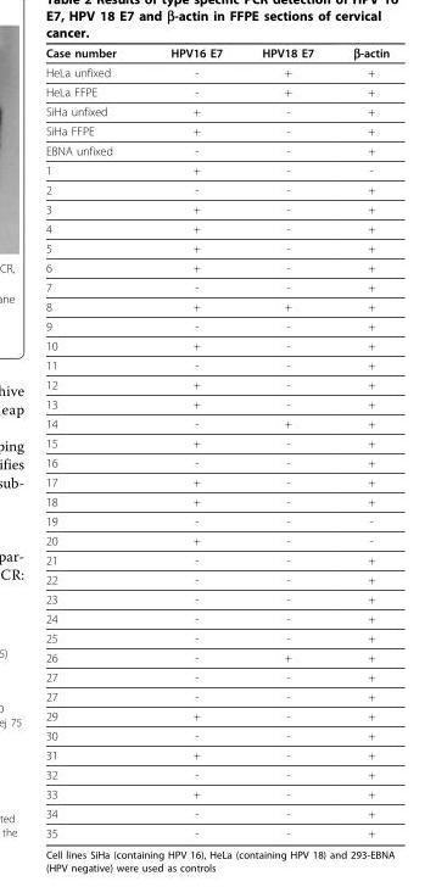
<table><thead><tr><td>Case number</td><td>HPV16 E7</td><td>HPV18 E7</td><td>β-actin</td></tr></thead><tbody><tr><td>HeLa unfixed</td><td>-</td><td>+</td><td>+</td></tr><tr><td>HeLa FFPE</td><td>-</td><td>+</td><td>+</td></tr><tr><td>SiHa unfixed</td><td>+</td><td>-</td><td>+</td></tr><tr><td>SiHa FFPE</td><td>+</td><td>-</td><td>+</td></tr><tr><td>EBNA unfixed</td><td>-</td><td>-</td><td>+</td></tr><tr><td>1</td><td>+</td><td>-</td><td>-</td></tr><tr><td>2</td><td>-</td><td>-</td><td>+</td></tr><tr><td>3</td><td>+</td><td>-</td><td>+</td></tr><tr><td>4</td><td>+</td><td>-</td><td>+</td></tr><tr><td>5</td><td>+</td><td>-</td><td>+</td></tr><tr><td>6</td><td>+</td><td>-</td><td>+</td></tr><tr><td>7</td><td>-</td><td>-</td><td>+</td></tr><tr><td>8</td><td>+</td><td>+</td><td>+</td></tr><tr><td>9</td><td>-</td><td>-</td><td>+</td></tr><tr><td>10</td><td>+</td><td>-</td><td>+</td></tr><tr><td>11</td><td>-</td><td>-</td><td>+</td></tr><tr><td>12</td><td>+</td><td>-</td><td>+</td></tr><tr><td>13</td><td>+</td><td>-</td><td>+</td></tr><tr><td>14</td><td>-</td><td>+</td><td>+</td></tr><tr><td>15</td><td>+</td><td>-</td><td>+</td></tr><tr><td>16</td><td>-</td><td>-</td><td>+</td></tr><tr><td>17</td><td>+</td><td>-</td><td>+</td></tr><tr><td>18</td><td>+</td><td>-</td><td>+</td></tr><tr><td>19</td><td>-</td><td>-</td><td>-</td></tr><tr><td>20</td><td>+</td><td>-</td><td>-</td></tr><tr><td>21</td><td>-</td><td>-</td><td>+</td></tr><tr><td>22</td><td>-</td><td>-</td><td>+</td></tr><tr><td>23</td><td>-</td><td>-</td><td>+</td></tr><tr><td>24</td><td>-</td><td>-</td><td>+</td></tr><tr><td>25</td><td>-</td><td>-</td><td>+</td></tr><tr><td>26</td><td>-</td><td>+</td><td>+</td></tr><tr><td>27</td><td>-</td><td>-</td><td>+</td></tr><tr><td>27</td><td>-</td><td>-</td><td>+</td></tr><tr><td>29</td><td>+</td><td>-</td><td>+</td></tr><tr><td>30</td><td>-</td><td>-</td><td>+</td></tr><tr><td>31</td><td>+</td><td>-</td><td>+</td></tr><tr><td>32</td><td>-</td><td>-</td><td>+</td></tr><tr><td>33</td><td>+</td><td>-</td><td>+</td></tr><tr><td>34</td><td>-</td><td>-</td><td>+</td></tr><tr><td>35</td><td>-</td><td>-</td><td>+</td></tr></tbody></table>